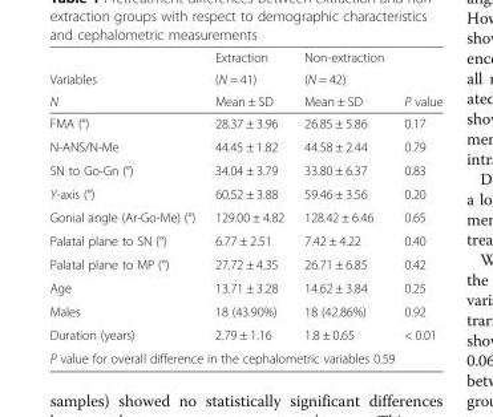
<table><thead><tr><td rowspan="3">Variables N</td><td rowspan="3">Extraction (N = 41) Mean ± SD</td><td rowspan="3">Non-extraction (N = 42) Mean ± SD</td><td rowspan="3">P value</td></tr><tr></tr><tr></tr></thead><tbody><tr><td>FMA (°)</td><td>28.37 ± 3.96</td><td>26.85 ± 5.86</td><td>0.17</td></tr><tr><td>N-ANS/N-Me</td><td>44.45 ± 1.82</td><td>44.58 ± 2.44</td><td>0.79</td></tr><tr><td>SN to Go-Gn (°)</td><td>34.04 ± 3.79</td><td>33.80 ± 6.37</td><td>0.83</td></tr><tr><td>Y-axis (°)</td><td>60.52 ± 3.88</td><td>59.46 ± 3.56</td><td>0.20</td></tr><tr><td>Gonial angle (Ar-Go-Me) (°)</td><td>129.00 ± 4.82</td><td>128.42 ± 6.46</td><td>0.65</td></tr><tr><td>Palatal plane to SN (°)</td><td>6.77 ± 2.51</td><td>7.42 ± 4.22</td><td>0.40</td></tr><tr><td>Palatal plane to MP (°)</td><td>27.72 ± 4.35</td><td>26.71 ± 6.85</td><td>0.42</td></tr><tr><td>Age</td><td>13.71 ± 3.28</td><td>14.62 ± 3.84</td><td>0.25</td></tr><tr><td>Males</td><td>18 (43.90%)</td><td>18 (42.86%)</td><td>0.92</td></tr><tr><td>Duration (years)</td><td>2.79 ± 1.16</td><td>1.8 ± 0.65</td><td>&lt; 0.01</td></tr><tr><td colspan="4">P value for overall difference in the cephalometric variables 0.59</td></tr></tbody></table>